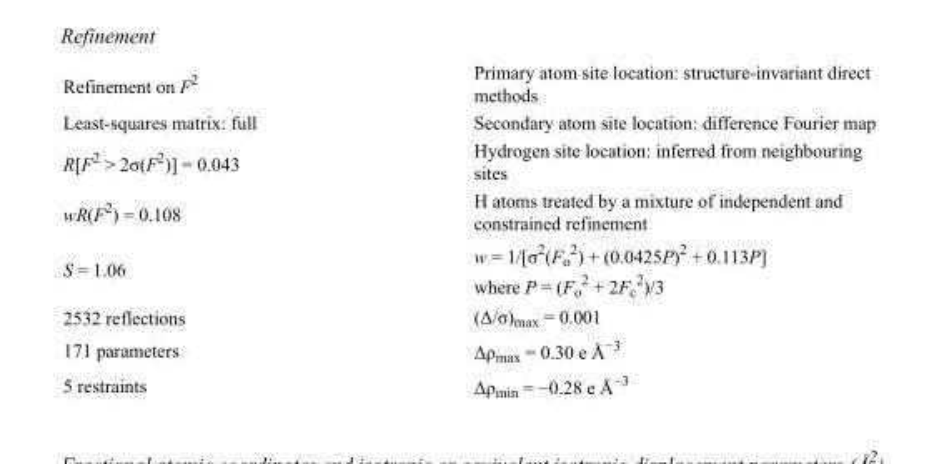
<table><tbody><tr><td>Refinement on F<sup>2</sup></td><td>Primary atom site location: structure-invariant direct methods</td></tr><tr><td>Least-squares matrix: full</td><td>Secondary atom site location: difference Fourier map</td></tr><tr><td>R[F<sup>2</sup> &gt; 2σ(F<sup>2</sup>)] = 0.043</td><td>Hydrogen site location: inferred from neighbouring sites</td></tr><tr><td>wR(F<sup>2</sup>) = 0.108</td><td>H atoms treated by a mixture of independent and constrained refinement</td></tr><tr><td>S = 1.06</td><td>w = 1/[σ<sup>2</sup>(F<sub>o</sub> <sup>2</sup>) + (0.0425P)<sup>2</sup> + 0.113P] where P = (F<sub>o</sub> <sup>2</sup> + 2F<sub>c</sub> <sup>2</sup>)/3</td></tr><tr><td>2532 reflections</td><td>(Δ/σ)<sub>max</sub> = 0.001</td></tr><tr><td>171 parameters</td><td>Δρ<sub>max</sub> = 0.30 e Å<sup>−3</sup></td></tr><tr><td>5 restraints</td><td>Δρ<sub>min</sub> = −0.28 e Å<sup>−3</sup></td></tr></tbody></table>